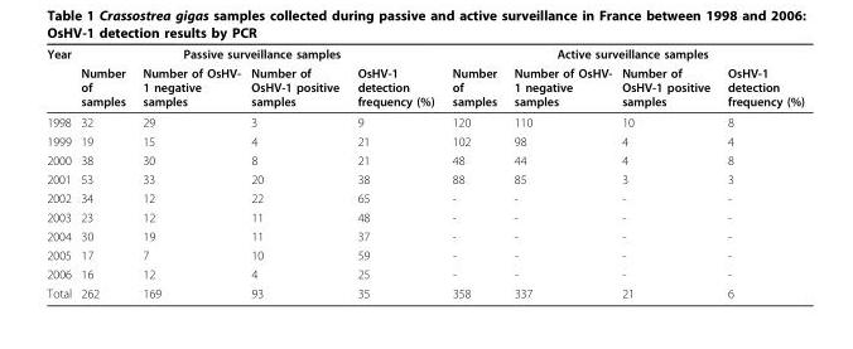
<table><thead><tr><td rowspan="2">Year</td><td colspan="4">Passive surveillance samples</td><td colspan="4">Active surveillance samples</td></tr><tr><td>Number of samples</td><td>Number of OsHV- 1 negative samples</td><td>Number of OsHV-1 positive samples</td><td>OsHV-1 detection frequency (%)</td><td>Number of samples</td><td>Number of OsHV- 1 negative samples</td><td>Number of OsHV-1 positive samples</td><td>OsHV-1 detection frequency (%)</td></tr></thead><tbody><tr><td>1998</td><td>32</td><td>29</td><td>3</td><td>9</td><td>120</td><td>110</td><td>10</td><td>8</td></tr><tr><td>1999</td><td>19</td><td>15</td><td>4</td><td>21</td><td>102</td><td>98</td><td>4</td><td>4</td></tr><tr><td>2000</td><td>38</td><td>30</td><td>8</td><td>21</td><td>48</td><td>44</td><td>4</td><td>8</td></tr><tr><td>2001</td><td>53</td><td>33</td><td>20</td><td>38</td><td>88</td><td>85</td><td>3</td><td>3</td></tr><tr><td>2002</td><td>34</td><td>12</td><td>22</td><td>65</td><td>-</td><td>-</td><td>-</td><td>-</td></tr><tr><td>2003</td><td>23</td><td>12</td><td>11</td><td>48</td><td>-</td><td>-</td><td>-</td><td>-</td></tr><tr><td>2004</td><td>30</td><td>19</td><td>11</td><td>37</td><td>-</td><td>-</td><td>-</td><td>-</td></tr><tr><td>2005</td><td>17</td><td>7</td><td>10</td><td>59</td><td>-</td><td>-</td><td>-</td><td>-</td></tr><tr><td>2006</td><td>16</td><td>12</td><td>4</td><td>25</td><td>-</td><td>-</td><td>-</td><td>-</td></tr><tr><td>Total</td><td>262</td><td>169</td><td>93</td><td>35</td><td>358</td><td>337</td><td>21</td><td>6</td></tr></tbody></table>